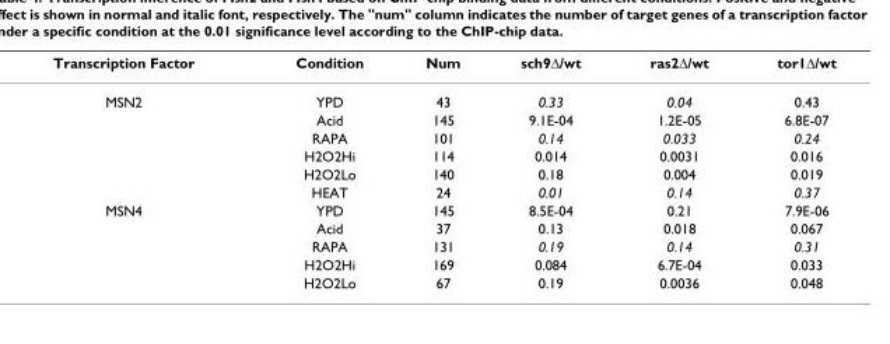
<table><thead><tr><td>Transcription Factor</td><td>Condition</td><td>Num</td><td>sch9∆/wt</td><td>ras2∆/wt</td><td>tor1∆/wt</td></tr></thead><tbody><tr><td rowspan="6">MSN2</td><td>YPD</td><td>43</td><td>0.33</td><td>0.04</td><td>0.43</td></tr><tr><td>Acid</td><td>145</td><td>9.1E-04</td><td>1.2E-05</td><td>6.8E-07</td></tr><tr><td>RAPA</td><td>101</td><td>0.14</td><td>0.033</td><td>0.24</td></tr><tr><td>H2O2Hi</td><td>114</td><td>0.014</td><td>0.0031</td><td>0.016</td></tr><tr><td>H2O2Lo</td><td>140</td><td>0.18</td><td>0.004</td><td>0.019</td></tr><tr><td>HEAT</td><td>24</td><td>0.01</td><td>0.14</td><td>0.37</td></tr><tr><td rowspan="5">MSN4</td><td>YPD</td><td>145</td><td>8.5E-04</td><td>0.21</td><td>7.9E-06</td></tr><tr><td>Acid</td><td>37</td><td>0.13</td><td>0.018</td><td>0.067</td></tr><tr><td>RAPA</td><td>131</td><td>0.19</td><td>0.14</td><td>0.31</td></tr><tr><td>H2O2Hi</td><td>169</td><td>0.084</td><td>6.7E-04</td><td>0.033</td></tr><tr><td>H2O2Lo</td><td>67</td><td>0.19</td><td>0.0036</td><td>0.048</td></tr></tbody></table>